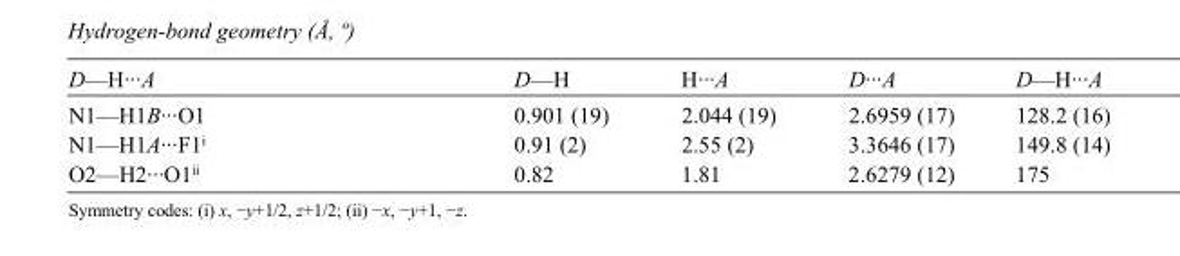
<table><tbody><tr><td>D—H···A</td><td>D—H</td><td>H···A</td><td>D···A</td><td>D—H···A</td></tr><tr><td>N1—H1B···O1</td><td>0.901 (19)</td><td>2.044 (19)</td><td>2.6959 (17)</td><td>128.2 (16)</td></tr><tr><td>N1—H1A···F1<sup>i</sup></td><td>0.91 (2)</td><td>2.55 (2)</td><td>3.3646 (17)</td><td>149.8 (14)</td></tr><tr><td>O2—H2···O1<sup>ii</sup></td><td>0.82</td><td>1.81</td><td>2.6279 (12)</td><td>175</td></tr></tbody></table>